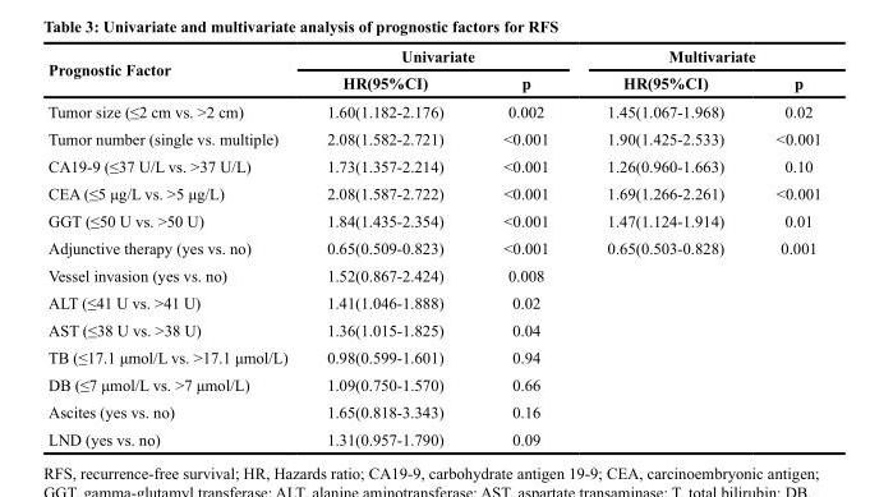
<table><thead><tr><td rowspan="2">Prognostic Factor</td><td colspan="2">Univariate</td><td colspan="2">Multivariate</td></tr><tr><td>HR(95%CI)</td><td>p</td><td>HR(95%CI)</td><td>p</td></tr></thead><tbody><tr><td>Tumor size (≤2 cm vs. &gt;2 cm)</td><td>1.60(1.182-2.176)</td><td>0.002</td><td>1.45(1.067-1.968)</td><td>0.02</td></tr><tr><td>Tumor number (single vs. multiple)</td><td>2.08(1.582-2.721)</td><td>&lt;0.001</td><td>1.90(1.425-2.533)</td><td>&lt;0.001</td></tr><tr><td>CA19-9 (≤37 U/L vs. &gt;37 U/L)</td><td>1.73(1.357-2.214)</td><td>&lt;0.001</td><td>1.26(0.960-1.663)</td><td>0.10</td></tr><tr><td>CEA (≤5 μg/L vs. &gt;5 μg/L)</td><td>2.08(1.587-2.722)</td><td>&lt;0.001</td><td>1.69(1.266-2.261)</td><td>&lt;0.001</td></tr><tr><td>GGT (≤50 U vs. &gt;50 U)</td><td>1.84(1.435-2.354)</td><td>&lt;0.001</td><td>1.47(1.124-1.914)</td><td>0.01</td></tr><tr><td>Adjunctive therapy (yes vs. no)</td><td>0.65(0.509-0.823)</td><td>&lt;0.001</td><td>0.65(0.503-0.828)</td><td>0.001</td></tr><tr><td>Vessel invasion (yes vs. no)</td><td>1.52(0.867-2.424)</td><td>0.008</td><td></td><td></td></tr><tr><td>ALT (≤41 U vs. &gt;41 U)</td><td>1.41(1.046-1.888)</td><td>0.02</td><td></td><td></td></tr><tr><td>AST (≤38 U vs. &gt;38 U)</td><td>1.36(1.015-1.825)</td><td>0.04</td><td></td><td></td></tr><tr><td>TB (≤17.1 μmol/L vs. &gt;17.1 μmol/L)</td><td>0.98(0.599-1.601)</td><td>0.94</td><td></td><td></td></tr><tr><td>DB (≤7 μmol/L vs. &gt;7 μmol/L)</td><td>1.09(0.750-1.570)</td><td>0.66</td><td></td><td></td></tr><tr><td>Ascites (yes vs. no)</td><td>1.65(0.818-3.343)</td><td>0.16</td><td></td><td></td></tr><tr><td>LND (yes vs. no)</td><td>1.31(0.957-1.790)</td><td>0.09</td><td></td><td></td></tr></tbody></table>